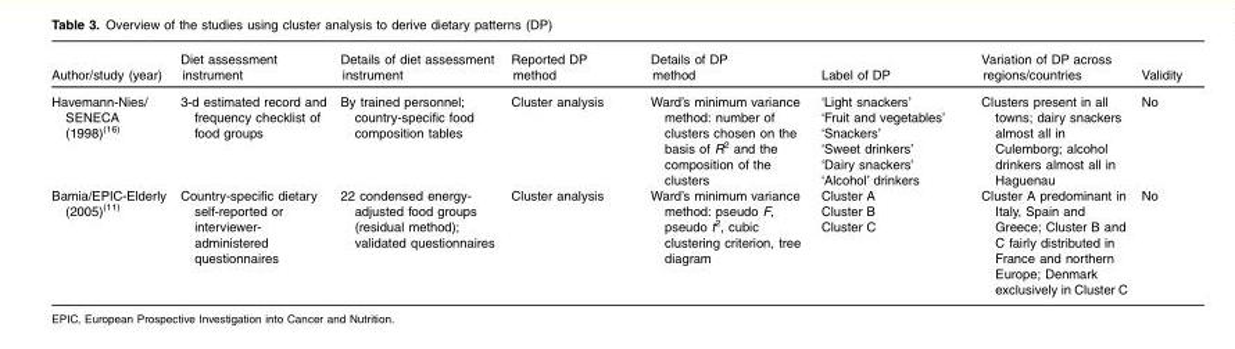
<table><thead><tr><td>Author/study (year)</td><td>Diet assessment instrument</td><td>Details of diet assessment instrument</td><td>Reported DP method</td><td>Details of DP method</td><td>Label of DP</td><td>Variation of DP across regions/countries</td><td>Validity</td></tr></thead><tbody><tr><td>Havemann-Nies/ SENECA (1998)<sup>(16)</sup></td><td>3-d estimated record and frequency checklist of food groups</td><td>By trained personnel; country-specific food composition tables</td><td>Cluster analysis</td><td>Ward’s minimum variance method: number of clusters chosen on the basis of R<sup>2</sup> and the composition of the clusters</td><td>‘Light snackers’ ‘Fruit and vegetables’ ‘Snackers’ ‘Sweet drinkers’ ‘Dairy snackers’ ‘Alcohol’ drinkers</td><td>Clusters present in all towns; dairy snackers almost all in Culemborg; alcohol drinkers almost all in Haguenau</td><td>No</td></tr><tr><td>Bamia/EPIC-Elderly (2005)<sup>(11)</sup></td><td>Country-specific dietary self-reported or interviewer- administered questionnaires</td><td>22 condensed energy- adjusted food groups (residual method); validated questionnaires</td><td>Cluster analysis</td><td>Ward’s minimum variance method: pseudo F, pseudo t<sup>2</sup>, cubic clustering criterion, tree diagram</td><td>Cluster A Cluster B Cluster C</td><td>Cluster A predominant in Italy, Spain and Greece; Cluster B and C fairly distributed in France and northern Europe; Denmark exclusively in Cluster C</td><td>No</td></tr></tbody></table>